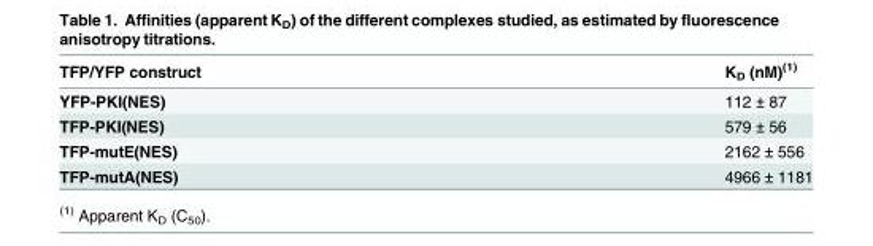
<table><thead><tr><td>TFP/YFP construct</td><td>K<sub>D</sub> (nM)<sup>(1)</sup></td></tr></thead><tbody><tr><td>YFP-PKI(NES)</td><td>112 ± 87</td></tr><tr><td>TFP-PKI(NES)</td><td>579 ± 56</td></tr><tr><td>TFP-mutE(NES)</td><td>2162 ± 556</td></tr><tr><td>TFP-mutA(NES)</td><td>4966 ± 1181</td></tr></tbody></table>